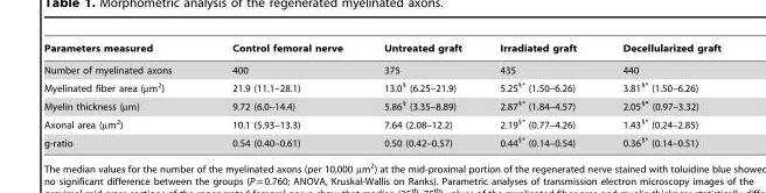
<table><thead><tr><td>Parameters measured</td><td>Control femoral nerve</td><td>Untreated graft</td><td>Irradiated graft</td><td>Decellularized graft</td></tr></thead><tbody><tr><td>Number of myelinated axons</td><td>400</td><td>375</td><td>435</td><td>440</td></tr><tr><td>Myelinated fiber area (µm<sup>2</sup>)</td><td>21.9 (11.1–28.1)</td><td>13.0<sup>§</sup> (6.25–21.9)</td><td>5.25<sup>§*</sup> (1.50–6.26)</td><td>3.81<sup>§*</sup> (1.50–6.26)</td></tr><tr><td>Myelin thickness (µm)</td><td>9.72 (6.0–14.4)</td><td>5.86<sup>§</sup> (3.35–8.89)</td><td>2.87<sup>§*</sup> (1.84–4.57)</td><td>2.05<sup>§*</sup> (0.97–3.32)</td></tr><tr><td>Axonal area (µm<sup>2</sup>)</td><td>10.1 (5.93–13.3)</td><td>7.64 (2.08–12.2)</td><td>2.19<sup>§*</sup> (0.77–4.26)</td><td>1.43<sup>§*</sup> (0.24–2.85)</td></tr><tr><td>g-ratio</td><td>0.54 (0.40–0.61)</td><td>0.50 (0.42–0.57)</td><td>0.44<sup>§*</sup> (0.14–0.54)</td><td>0.36<sup>§*</sup> (0.14–0.51)</td></tr></tbody></table>